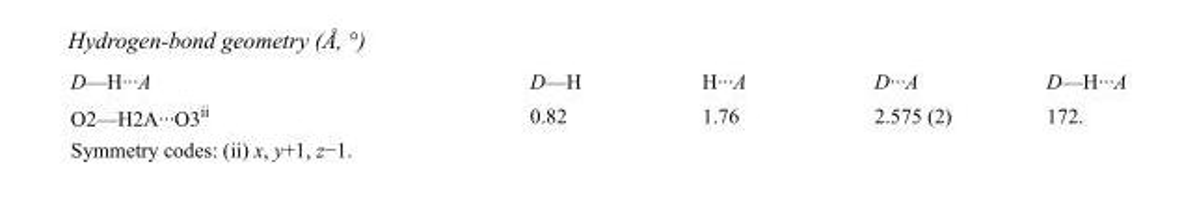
<table><tbody><tr><td>D—H···A</td><td>D—H</td><td>H···A</td><td>D···A</td><td>D—H···A</td></tr><tr><td>O2—H2A···O3<sup>ii</sup></td><td>0.82</td><td>1.76</td><td>2.575 (2)</td><td>172.</td></tr></tbody></table>